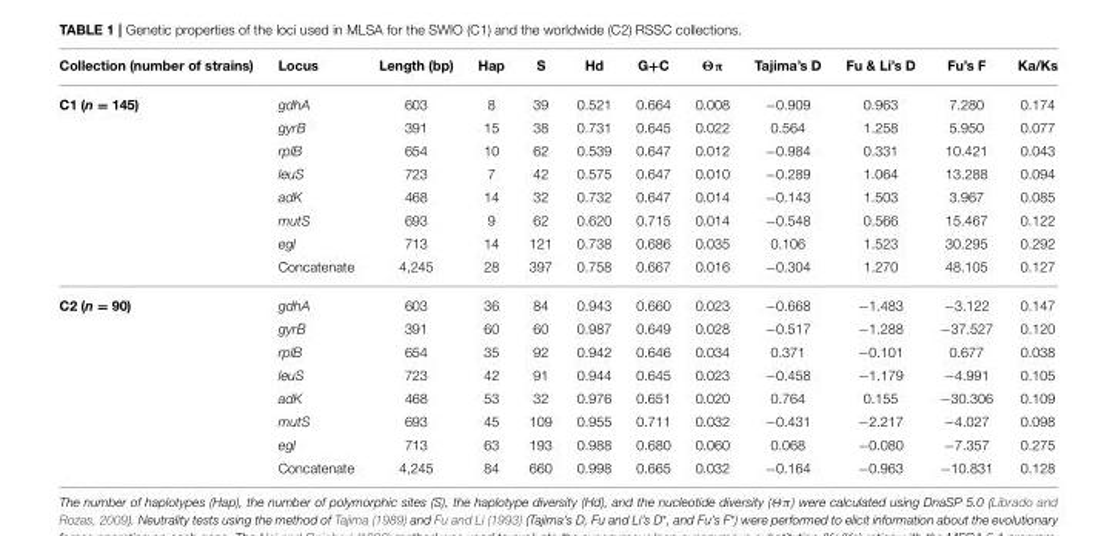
<table><thead><tr><td>Collection (number of strains)</td><td>Locus</td><td>Length (bp)</td><td>Hap</td><td>S</td><td>Hd</td><td>G+C</td><td>Θπ</td><td>Tajima’s D</td><td>Fu &amp; Li’s D</td><td>Fu’s F</td><td>Ka/Ks</td></tr></thead><tbody><tr><td rowspan="8">C1 (n = 145)</td><td>gdhA</td><td>603</td><td>8</td><td>39</td><td>0.521</td><td>0.664</td><td>0.008</td><td>−0.909</td><td>0.963</td><td>7.280</td><td>0.174</td></tr><tr><td>gyrB</td><td>391</td><td>15</td><td>38</td><td>0.731</td><td>0.645</td><td>0.022</td><td>0.564</td><td>1.258</td><td>5.950</td><td>0.077</td></tr><tr><td>rplB</td><td>654</td><td>10</td><td>62</td><td>0.539</td><td>0.647</td><td>0.012</td><td>−0.984</td><td>0.331</td><td>10.421</td><td>0.043</td></tr><tr><td>leuS</td><td>723</td><td>7</td><td>42</td><td>0.575</td><td>0.647</td><td>0.010</td><td>−0.289</td><td>1.064</td><td>13.288</td><td>0.094</td></tr><tr><td>adK</td><td>468</td><td>14</td><td>32</td><td>0.732</td><td>0.647</td><td>0.014</td><td>−0.143</td><td>1.503</td><td>3.967</td><td>0.085</td></tr><tr><td>mutS</td><td>693</td><td>9</td><td>62</td><td>0.620</td><td>0.715</td><td>0.014</td><td>−0.548</td><td>0.566</td><td>15.467</td><td>0.122</td></tr><tr><td>egl</td><td>713</td><td>14</td><td>121</td><td>0.738</td><td>0.686</td><td>0.035</td><td>0.106</td><td>1.523</td><td>30.295</td><td>0.292</td></tr><tr><td>Concatenate</td><td>4,245</td><td>28</td><td>397</td><td>0.758</td><td>0.667</td><td>0.016</td><td>−0.304</td><td>1.270</td><td>48.105</td><td>0.127</td></tr><tr><td rowspan="8">C2 (n = 90)</td><td>gdhA</td><td>603</td><td>36</td><td>84</td><td>0.943</td><td>0.660</td><td>0.023</td><td>−0.668</td><td>−1.483</td><td>−3.122</td><td>0.147</td></tr><tr><td>gyrB</td><td>391</td><td>60</td><td>60</td><td>0.987</td><td>0.649</td><td>0.028</td><td>−0.517</td><td>−1.288</td><td>−37.527</td><td>0.120</td></tr><tr><td>rplB</td><td>654</td><td>35</td><td>92</td><td>0.942</td><td>0.646</td><td>0.034</td><td>0.371</td><td>−0.101</td><td>0.677</td><td>0.038</td></tr><tr><td>leuS</td><td>723</td><td>42</td><td>91</td><td>0.944</td><td>0.645</td><td>0.023</td><td>−0.458</td><td>−1.179</td><td>−4.991</td><td>0.105</td></tr><tr><td>adK</td><td>468</td><td>53</td><td>32</td><td>0.976</td><td>0.651</td><td>0.020</td><td>0.764</td><td>0.155</td><td>−30.306</td><td>0.109</td></tr><tr><td>mutS</td><td>693</td><td>45</td><td>109</td><td>0.955</td><td>0.711</td><td>0.032</td><td>−0.431</td><td>−2.217</td><td>−4.027</td><td>0.098</td></tr><tr><td>egl</td><td>713</td><td>63</td><td>193</td><td>0.988</td><td>0.680</td><td>0.060</td><td>0.068</td><td>−0.080</td><td>−7.357</td><td>0.275</td></tr><tr><td>Concatenate</td><td>4,245</td><td>84</td><td>660</td><td>0.998</td><td>0.665</td><td>0.032</td><td>−0.164</td><td>−0.963</td><td>−10.831</td><td>0.128</td></tr></tbody></table>